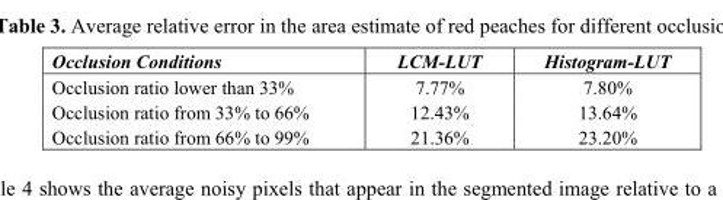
<table><thead><tr><td>Occlusion Conditions</td><td>LCM-LUT</td><td>Histogram-LUT</td></tr></thead><tbody><tr><td>Occlusion ratio lower than 33%</td><td>7.77%</td><td>7.80%</td></tr><tr><td>Occlusion ratio from 33% to 66%</td><td>12.43%</td><td>13.64%</td></tr><tr><td>Occlusion ratio from 66% to 99%</td><td>21.36%</td><td>23.20%</td></tr></tbody></table>